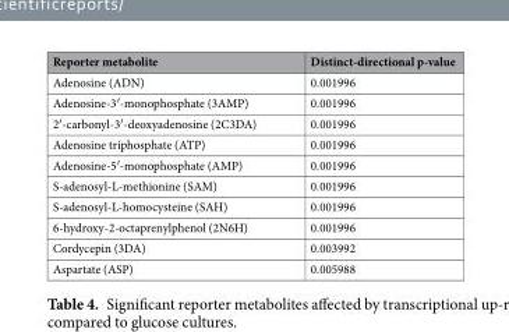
<table><thead><tr><td>Reporter metabolite</td><td>Distinct-directional p-value</td></tr></thead><tbody><tr><td>Adenosine (ADN)</td><td>0.001996</td></tr><tr><td>Adenosine-3′-monophosphate (3AMP)</td><td>0.001996</td></tr><tr><td>2′-carbonyl-3′-deoxyadenosine (2C3DA)</td><td>0.001996</td></tr><tr><td>Adenosine triphosphate (ATP)</td><td>0.001996</td></tr><tr><td>Adenosine-5′-monophosphate (AMP)</td><td>0.001996</td></tr><tr><td>S-adenosyl-L-methionine (SAM)</td><td>0.001996</td></tr><tr><td>S-adenosyl-L-homocysteine (SAH)</td><td>0.001996</td></tr><tr><td>6-hydroxy-2-octaprenylphenol (2N6H)</td><td>0.001996</td></tr><tr><td>Cordycepin (3DA)</td><td>0.003992</td></tr><tr><td>Aspartate (ASP)</td><td>0.005988</td></tr></tbody></table>